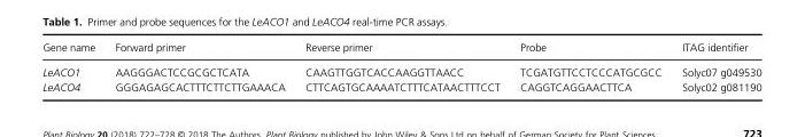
<table><thead><tr><td>Gene name</td><td>Forward primer</td><td>Reverse primer</td><td>Probe</td><td>ITAG identifier</td></tr></thead><tbody><tr><td>LeACO1</td><td>AAGGGACTCCGCGCTCATA</td><td>CAAGTTGGTCACCAAGGTTAACC</td><td>TCGATGTTCCTCCCATGCGCC</td><td>Solyc07 g049530</td></tr><tr><td>LeACO4</td><td>GGGAGAGCACTTTCTTCTTGAAACA</td><td>CTTCAGTGCAAAATCTTTCATAACTTTCCT</td><td>CAGGTCAGGAACTTCA</td><td>Solyc02 g081190</td></tr></tbody></table>